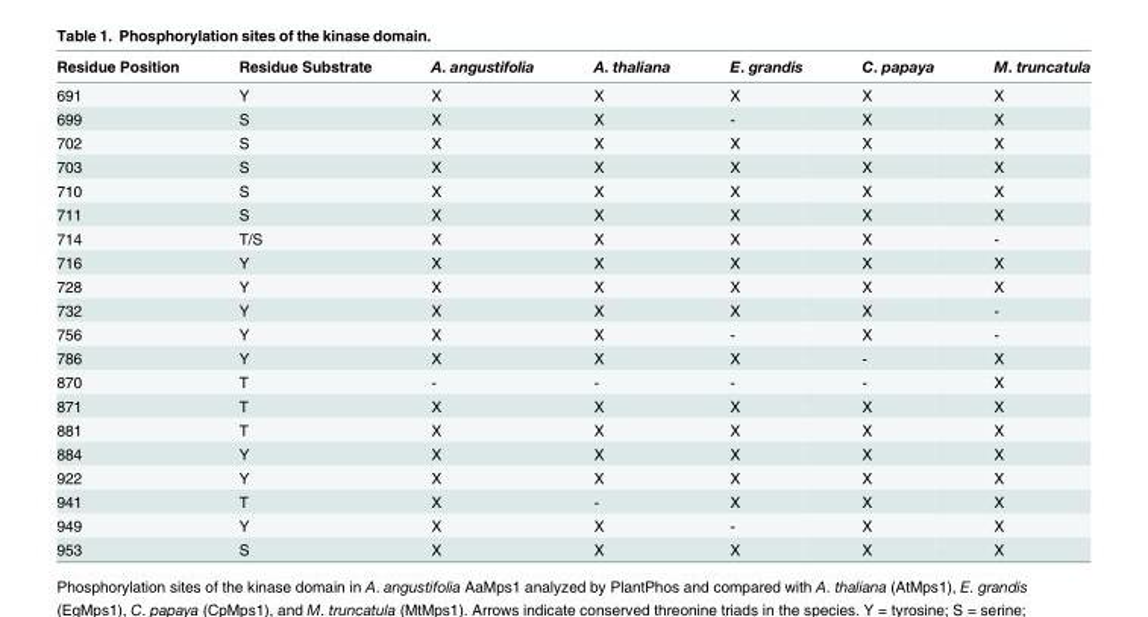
<table><thead><tr><td>Residue Position</td><td>Residue Substrate</td><td>A. angustifolia</td><td>A. thaliana</td><td>E. grandis</td><td>C. papaya</td><td>M. truncatula</td></tr></thead><tbody><tr><td>691</td><td>Y</td><td>X</td><td>X</td><td>X</td><td>X</td><td>X</td></tr><tr><td>699</td><td>S</td><td>X</td><td>X</td><td>-</td><td>X</td><td>X</td></tr><tr><td>702</td><td>S</td><td>X</td><td>X</td><td>X</td><td>X</td><td>X</td></tr><tr><td>703</td><td>S</td><td>X</td><td>X</td><td>X</td><td>X</td><td>X</td></tr><tr><td>710</td><td>S</td><td>X</td><td>X</td><td>X</td><td>X</td><td>X</td></tr><tr><td>711</td><td>S</td><td>X</td><td>X</td><td>X</td><td>X</td><td>X</td></tr><tr><td>714</td><td>T/S</td><td>X</td><td>X</td><td>X</td><td>X</td><td>-</td></tr><tr><td>716</td><td>Y</td><td>X</td><td>X</td><td>X</td><td>X</td><td>X</td></tr><tr><td>728</td><td>Y</td><td>X</td><td>X</td><td>X</td><td>X</td><td>X</td></tr><tr><td>732</td><td>Y</td><td>X</td><td>X</td><td>X</td><td>X</td><td>-</td></tr><tr><td>756</td><td>Y</td><td>X</td><td>X</td><td>-</td><td>X</td><td>-</td></tr><tr><td>786</td><td>Y</td><td>X</td><td>X</td><td>X</td><td>-</td><td>X</td></tr><tr><td>870</td><td>T</td><td>-</td><td>-</td><td>-</td><td>-</td><td>X</td></tr><tr><td>871</td><td>T</td><td>X</td><td>X</td><td>X</td><td>X</td><td>X</td></tr><tr><td>881</td><td>T</td><td>X</td><td>X</td><td>X</td><td>X</td><td>X</td></tr><tr><td>884</td><td>Y</td><td>X</td><td>X</td><td>X</td><td>X</td><td>X</td></tr><tr><td>922</td><td>Y</td><td>X</td><td>X</td><td>X</td><td>X</td><td>X</td></tr><tr><td>941</td><td>T</td><td>X</td><td>-</td><td>X</td><td>X</td><td>X</td></tr><tr><td>949</td><td>Y</td><td>X</td><td>X</td><td>-</td><td>X</td><td>X</td></tr><tr><td>953</td><td>S</td><td>X</td><td>X</td><td>X</td><td>X</td><td>X</td></tr></tbody></table>